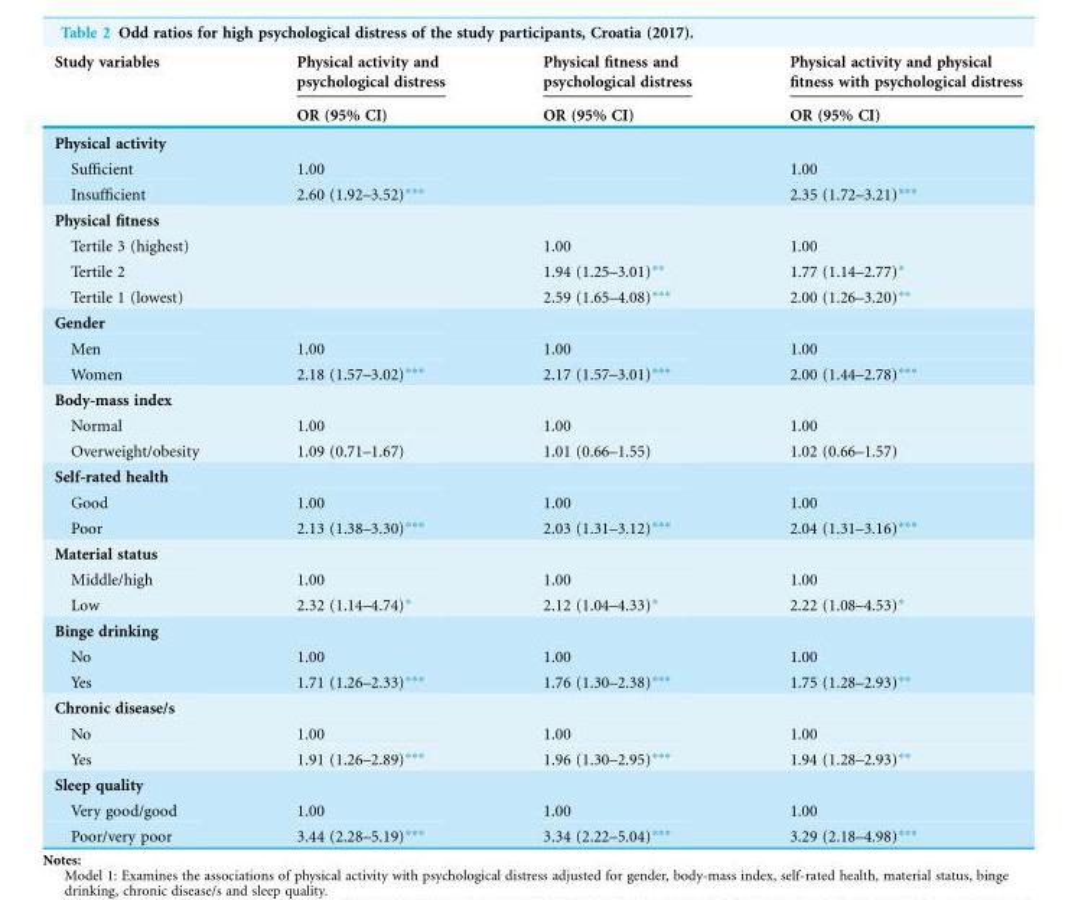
<table><thead><tr><td rowspan="2">Study variables</td><td rowspan="2">Physical activity and psychological distress OR (95% CI)</td><td rowspan="2">Physical fitness and psychological distress OR (95% CI)</td><td rowspan="2">Physical activity and physical fitness with psychological distress OR (95% CI)</td></tr><tr></tr></thead><tbody><tr><td colspan="4">Physical activity</td></tr><tr><td>Sufficient</td><td>1.00</td><td></td><td>1.00</td></tr><tr><td>Insufficient</td><td>2.60 (1.92–3.52)***</td><td></td><td>2.35 (1.72–3.21)***</td></tr><tr><td colspan="4">Physical fitness</td></tr><tr><td>Tertile 3 (highest)</td><td></td><td>1.00</td><td>1.00</td></tr><tr><td>Tertile 2</td><td></td><td>1.94 (1.25–3.01)**</td><td>1.77 (1.14–2.77)*</td></tr><tr><td>Tertile 1 (lowest)</td><td></td><td>2.59 (1.65–4.08)***</td><td>2.00 (1.26–3.20)**</td></tr><tr><td colspan="4">Gender</td></tr><tr><td>Men</td><td>1.00</td><td>1.00</td><td>1.00</td></tr><tr><td>Women</td><td>2.18 (1.57–3.02)***</td><td>2.17 (1.57–3.01)***</td><td>2.00 (1.44–2.78)***</td></tr><tr><td colspan="4">Body-mass index</td></tr><tr><td>Normal</td><td>1.00</td><td>1.00</td><td>1.00</td></tr><tr><td>Overweight/obesity</td><td>1.09 (0.71–1.67)</td><td>1.01 (0.66–1.55)</td><td>1.02 (0.66–1.57)</td></tr><tr><td colspan="4">Self-rated health</td></tr><tr><td>Good</td><td>1.00</td><td>1.00</td><td>1.00</td></tr><tr><td>Poor</td><td>2.13 (1.38–3.30)***</td><td>2.03 (1.31–3.12)***</td><td>2.04 (1.31–3.16)***</td></tr><tr><td colspan="4">Material status</td></tr><tr><td>Middle/high</td><td>1.00</td><td>1.00</td><td>1.00</td></tr><tr><td>Low</td><td>2.32 (1.14–4.74)*</td><td>2.12 (1.04–4.33)*</td><td>2.22 (1.08–4.53)*</td></tr><tr><td colspan="4">Binge drinking</td></tr><tr><td>No</td><td>1.00</td><td>1.00</td><td>1.00</td></tr><tr><td>Yes</td><td>1.71 (1.26–2.33)***</td><td>1.76 (1.30–2.38)***</td><td>1.75 (1.28–2.93)**</td></tr><tr><td colspan="4">Chronic disease/s</td></tr><tr><td>No</td><td>1.00</td><td>1.00</td><td>1.00</td></tr><tr><td>Yes</td><td>1.91 (1.26–2.89)***</td><td>1.96 (1.30–2.95)***</td><td>1.94 (1.28–2.93)**</td></tr><tr><td colspan="4">Sleep quality</td></tr><tr><td>Very good/good</td><td>1.00</td><td>1.00</td><td>1.00</td></tr><tr><td>Poor/very poor</td><td>3.44 (2.28–5.19)***</td><td>3.34 (2.22–5.04)***</td><td>3.29 (2.18–4.98)***</td></tr></tbody></table>